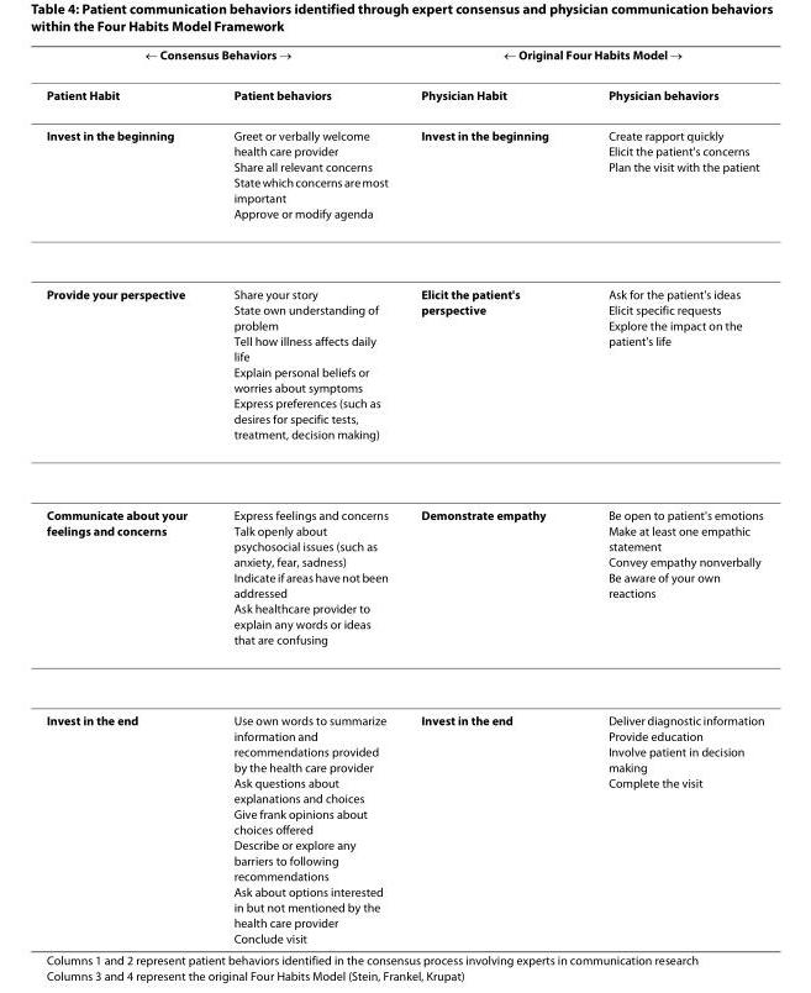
<table><thead><tr><td colspan="2">← Consensus Behaviors →</td><td colspan="2">← Original Four Habits Model →</td></tr><tr><td>Patient Habit</td><td>Patient behaviors</td><td>Physician Habit</td><td>Physician behaviors</td></tr></thead><tbody><tr><td>Invest in the beginning</td><td>Greet or verbally welcome health care provider Share all relevant concerns State which concerns are most important Approve or modify agenda</td><td>Invest in the beginning</td><td>Create rapport quickly Elicit the patient&#x27;s concerns Plan the visit with the patient</td></tr><tr><td>Provide your perspective</td><td>Share your story State own understanding of problem Tell how illness affects daily life Explain personal beliefs or worries about symptoms Express preferences (such as desires for specific tests, treatment, decision making)</td><td>Elicit the patient&#x27;s perspective</td><td>Ask for the patient&#x27;s ideas Elicit specific requests Explore the impact on the patient&#x27;s life</td></tr><tr><td>Communicate about your feelings and concerns</td><td>Express feelings and concerns Talk openly about psychosocial issues (such as anxiety, fear, sadness) Indicate if areas have not been addressed Ask healthcare provider to explain any words or ideas that are confusing</td><td>Demonstrate empathy</td><td>Be open to patient&#x27;s emotions Make at least one empathic statement Convey empathy nonverbally Be aware of your own reactions</td></tr><tr><td>Invest in the end</td><td>Use own words to summarize information and recommendations provided by the health care provider Ask questions about explanations and choices Give frank opinions about choices offered Describe or explore any barriers to following recommendations Ask about options interested in but not mentioned by the health care provider Conclude visit</td><td>Invest in the end</td><td>Deliver diagnostic information Provide education Involve patient in decision making Complete the visit</td></tr></tbody></table>